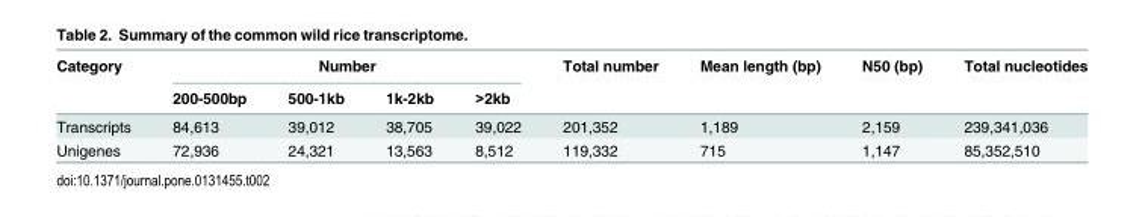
<table><thead><tr><td rowspan="2">Category</td><td colspan="4">Number</td><td rowspan="2">Total number</td><td rowspan="2">Mean length (bp)</td><td rowspan="2">N50 (bp)</td><td rowspan="2">Total nucleotides</td></tr><tr><td>200-500bp</td><td>500-1kb</td><td>1k-2kb</td><td>&gt;2kb</td></tr></thead><tbody><tr><td>Transcripts</td><td>84,613</td><td>39,012</td><td>38,705</td><td>39,022</td><td>201,352</td><td>1,189</td><td>2,159</td><td>239,341,036</td></tr><tr><td>Unigenes</td><td>72,936</td><td>24,321</td><td>13,563</td><td>8,512</td><td>119,332</td><td>715</td><td>1,147</td><td>85,352,510</td></tr></tbody></table>